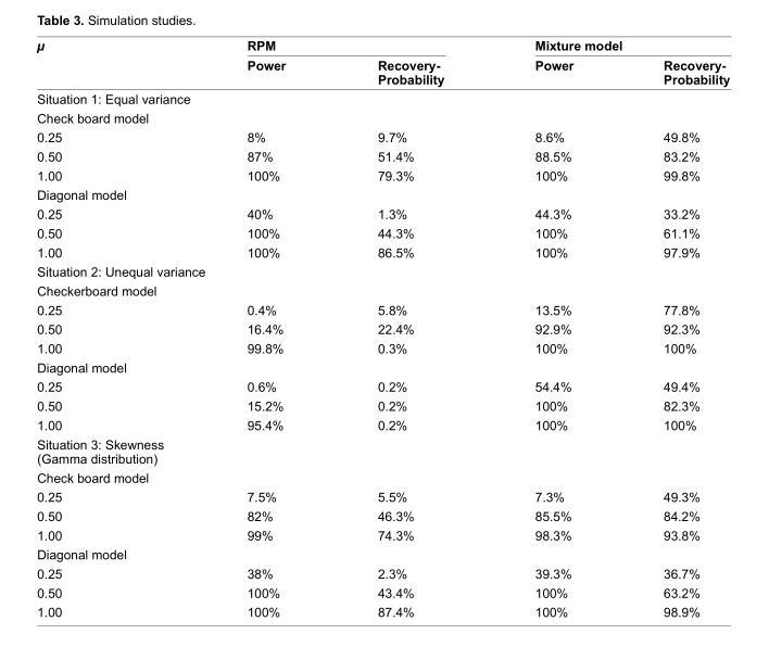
<table><thead><tr><td rowspan="2">µ</td><td colspan="2">RpM</td><td colspan="2">Mixture model</td></tr><tr><td>power</td><td>Recovery- probability</td><td>power</td><td>Recovery- probability</td></tr></thead><tbody><tr><td colspan="5">situation 1: equal variance</td></tr><tr><td colspan="5">Check board model</td></tr><tr><td>0.25</td><td>8%</td><td>9.7%</td><td>8.6%</td><td>49.8%</td></tr><tr><td>0.50</td><td>87%</td><td>51.4%</td><td>88.5%</td><td>83.2%</td></tr><tr><td>1.00</td><td>100%</td><td>79.3%</td><td>100%</td><td>99.8%</td></tr><tr><td colspan="5">Diagonal model</td></tr><tr><td>0.25</td><td>40%</td><td>1.3%</td><td>44.3%</td><td>33.2%</td></tr><tr><td>0.50</td><td>100%</td><td>44.3%</td><td>100%</td><td>61.1%</td></tr><tr><td>1.00</td><td>100%</td><td>86.5%</td><td>100%</td><td>97.9%</td></tr><tr><td colspan="5">situation 2: Unequal variance</td></tr><tr><td colspan="5">Checkerboard model</td></tr><tr><td>0.25</td><td>0.4%</td><td>5.8%</td><td>13.5%</td><td>77.8%</td></tr><tr><td>0.50</td><td>16.4%</td><td>22.4%</td><td>92.9%</td><td>92.3%</td></tr><tr><td>1.00</td><td>99.8%</td><td>0.3%</td><td>100%</td><td>100%</td></tr><tr><td colspan="5">Diagonal model</td></tr><tr><td>0.25</td><td>0.6%</td><td>0.2%</td><td>54.4%</td><td>49.4%</td></tr><tr><td>0.50</td><td>15.2%</td><td>0.2%</td><td>100%</td><td>82.3%</td></tr><tr><td>1.00</td><td>95.4%</td><td>0.2%</td><td>100%</td><td>100%</td></tr><tr><td colspan="5">situation 3: skewness (gamma distribution)</td></tr><tr><td colspan="5">Check board model</td></tr><tr><td>0.25</td><td>7.5%</td><td>5.5%</td><td>7.3%</td><td>49.3%</td></tr><tr><td>0.50</td><td>82%</td><td>46.3%</td><td>85.5%</td><td>84.2%</td></tr><tr><td>1.00</td><td>99%</td><td>74.3%</td><td>98.3%</td><td>93.8%</td></tr><tr><td colspan="5">Diagonal model</td></tr><tr><td>0.25</td><td>38%</td><td>2.3%</td><td>39.3%</td><td>36.7%</td></tr><tr><td>0.50</td><td>100%</td><td>43.4%</td><td>100%</td><td>63.2%</td></tr><tr><td>1.00</td><td>100%</td><td>87.4%</td><td>100%</td><td>98.9%</td></tr></tbody></table>